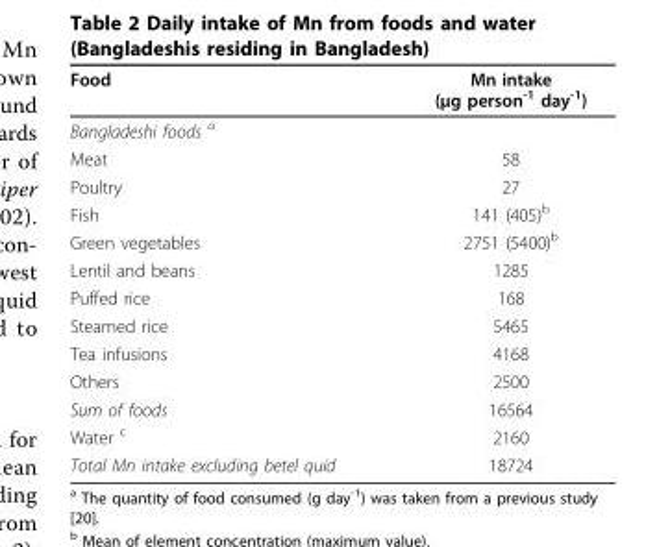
<table><thead><tr><td>Food</td><td>Mn intake (μg person<sup>-1</sup> day<sup>-1</sup>)</td></tr></thead><tbody><tr><td colspan="2">Bangladeshi foods <sup>a</sup></td></tr><tr><td>Meat</td><td>58</td></tr><tr><td>Poultry</td><td>27</td></tr><tr><td>Fish</td><td>141 (405)<sup>b</sup></td></tr><tr><td>Green vegetables</td><td>2751 (5400)<sup>b</sup></td></tr><tr><td>Lentil and beans</td><td>1285</td></tr><tr><td>Puffed rice</td><td>168</td></tr><tr><td>Steamed rice</td><td>5465</td></tr><tr><td>Tea infusions</td><td>4168</td></tr><tr><td>Others</td><td>2500</td></tr><tr><td>Sum of foods</td><td>16564</td></tr><tr><td>Water <sup>c</sup></td><td>2160</td></tr><tr><td>Total Mn intake excluding betel quid</td><td>18724</td></tr></tbody></table>